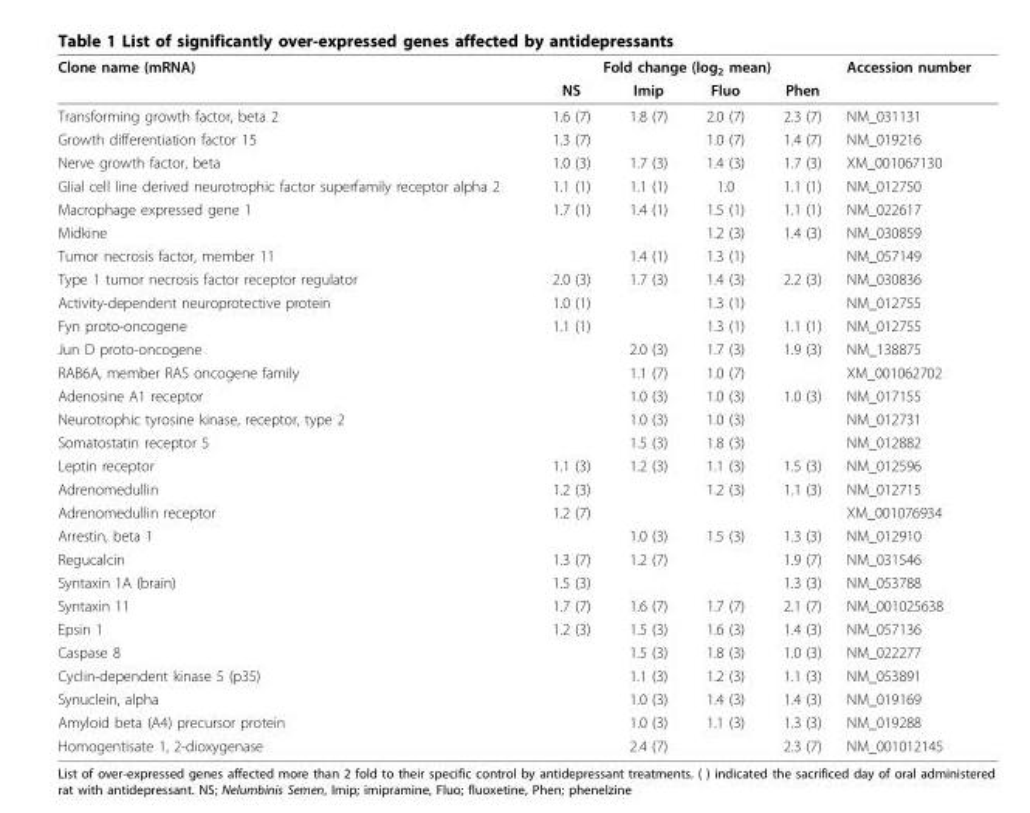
<table><thead><tr><td rowspan="2">Clone name (mRNA)</td><td colspan="4">Fold change (log<sub>2</sub> mean)</td><td rowspan="2">Accession number</td></tr><tr><td>NS</td><td>Imip</td><td>Fluo</td><td>Phen</td></tr></thead><tbody><tr><td>Transforming growth factor, beta 2</td><td>1.6 (7)</td><td>1.8 (7)</td><td>2.0 (7)</td><td>2.3 (7)</td><td>NM_031131</td></tr><tr><td>Growth differentiation factor 15</td><td>1.3 (7)</td><td></td><td>1.0 (7)</td><td>1.4 (7)</td><td>NM_019216</td></tr><tr><td>Nerve growth factor, beta</td><td>1.0 (3)</td><td>1.7 (3)</td><td>1.4 (3)</td><td>1.7 (3)</td><td>XM_001067130</td></tr><tr><td>Glial cell line derived neurotrophic factor superfamily receptor alpha 2</td><td>1.1 (1)</td><td>1.1 (1)</td><td>1.0</td><td>1.1 (1)</td><td>NM_012750</td></tr><tr><td>Macrophage expressed gene 1</td><td>1.7 (1)</td><td>1.4 (1)</td><td>1.5 (1)</td><td>1.1 (1)</td><td>NM_022617</td></tr><tr><td>Midkine</td><td></td><td></td><td>1.2 (3)</td><td>1.4 (3)</td><td>NM_030859</td></tr><tr><td>Tumor necrosis factor, member 11</td><td></td><td>1.4 (1)</td><td>1.3 (1)</td><td></td><td>NM_057149</td></tr><tr><td>Type 1 tumor necrosis factor receptor regulator</td><td>2.0 (3)</td><td>1.7 (3)</td><td>1.4 (3)</td><td>2.2 (3)</td><td>NM_030836</td></tr><tr><td>Activity-dependent neuroprotective protein</td><td>1.0 (1)</td><td></td><td>1.3 (1)</td><td></td><td>NM_012755</td></tr><tr><td>Fyn proto-oncogene</td><td>1.1 (1)</td><td></td><td>1.3 (1)</td><td>1.1 (1)</td><td>NM_012755</td></tr><tr><td>Jun D proto-oncogene</td><td></td><td>2.0 (3)</td><td>1.7 (3)</td><td>1.9 (3)</td><td>NM_138875</td></tr><tr><td>RAB6A, member RAS oncogene family</td><td></td><td>1.1 (7)</td><td>1.0 (7)</td><td></td><td>XM_001062702</td></tr><tr><td>Adenosine A1 receptor</td><td></td><td>1.0 (3)</td><td>1.0 (3)</td><td>1.0 (3)</td><td>NM_017155</td></tr><tr><td>Neurotrophic tyrosine kinase, receptor, type 2</td><td></td><td>1.0 (3)</td><td>1.0 (3)</td><td></td><td>NM_012731</td></tr><tr><td>Somatostatin receptor 5</td><td></td><td>1.5 (3)</td><td>1.8 (3)</td><td></td><td>NM_012882</td></tr><tr><td>Leptin receptor</td><td>1.1 (3)</td><td>1.2 (3)</td><td>1.1 (3)</td><td>1.5 (3)</td><td>NM_012596</td></tr><tr><td>Adrenomedullin</td><td>1.2 (3)</td><td></td><td>1.2 (3)</td><td>1.1 (3)</td><td>NM_012715</td></tr><tr><td>Adrenomedullin receptor</td><td>1.2 (7)</td><td></td><td></td><td></td><td>XM_001076934</td></tr><tr><td>Arrestin, beta 1</td><td></td><td>1.0 (3)</td><td>1.5 (3)</td><td>1.3 (3)</td><td>NM_012910</td></tr><tr><td>Regucalcin</td><td>1.3 (7)</td><td>1.2 (7)</td><td></td><td>1.9 (7)</td><td>NM_031546</td></tr><tr><td>Syntaxin 1A (brain)</td><td>1.5 (3)</td><td></td><td></td><td>1.3 (3)</td><td>NM_053788</td></tr><tr><td>Syntaxin 11</td><td>1.7 (7)</td><td>1.6 (7)</td><td>1.7 (7)</td><td>2.1 (7)</td><td>NM_001025638</td></tr><tr><td>Epsin 1</td><td>1.2 (3)</td><td>1.5 (3)</td><td>1.6 (3)</td><td>1.4 (3)</td><td>NM_057136</td></tr><tr><td>Caspase 8</td><td></td><td>1.5 (3)</td><td>1.8 (3)</td><td>1.0 (3)</td><td>NM_022277</td></tr><tr><td>Cyclin-dependent kinase 5 (p35)</td><td></td><td>1.1 (3)</td><td>1.2 (3)</td><td>1.1 (3)</td><td>NM_053891</td></tr><tr><td>Synuclein, alpha</td><td></td><td>1.0 (3)</td><td>1.4 (3)</td><td>1.4 (3)</td><td>NM_019169</td></tr><tr><td>Amyloid beta (A4) precursor protein</td><td></td><td>1.0 (3)</td><td>1.1 (3)</td><td>1.3 (3)</td><td>NM_019288</td></tr><tr><td>Homogentisate 1, 2-dioxygenase</td><td></td><td>2.4 (7)</td><td></td><td>2.3 (7)</td><td>NM_001012145</td></tr></tbody></table>